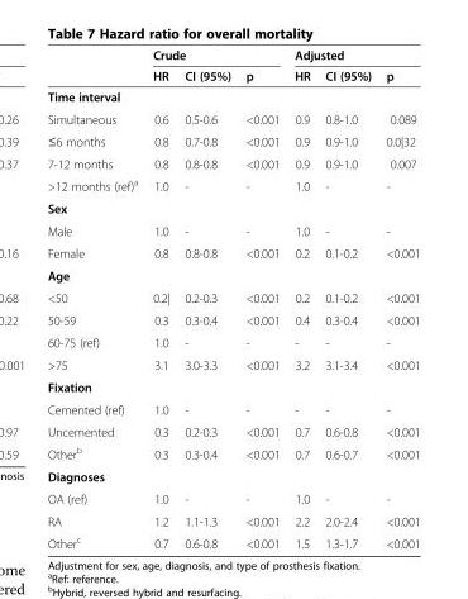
<table><thead><tr><td rowspan="2"></td><td colspan="3">Crude</td><td colspan="3">Adjusted</td></tr><tr><td>HR</td><td>CI (95%)</td><td>p</td><td>HR</td><td>CI (95%)</td><td>p</td></tr></thead><tbody><tr><td colspan="7">Time interval</td></tr><tr><td>Simultaneous</td><td>0.6</td><td>0.5-0.6</td><td>&lt;0.001</td><td>0.9</td><td>0.8-1.0</td><td>0.089</td></tr><tr><td>≤6 months</td><td>0.8</td><td>0.7-0.8</td><td>&lt;0.001</td><td>0.9</td><td>0.9-1.0</td><td>0.0|32</td></tr><tr><td>7-12 months</td><td>0.8</td><td>0.8-0.8</td><td>&lt;0.001</td><td>0.9</td><td>0.9-1.0</td><td>0.007</td></tr><tr><td>&gt;12 months (ref)<sup>a</sup></td><td>1.0</td><td>-</td><td>-</td><td>1.0</td><td>-</td><td>-</td></tr><tr><td colspan="7">Sex</td></tr><tr><td>Male</td><td>1.0</td><td>-</td><td>-</td><td>1.0</td><td>-</td><td>-</td></tr><tr><td>Female</td><td>0.8</td><td>0.8-0.8</td><td>&lt;0.001</td><td>0.2</td><td>0.1-0.2</td><td>&lt;0.001</td></tr><tr><td colspan="7">Age</td></tr><tr><td>&lt;50</td><td>0.2|</td><td>0.2-0.3</td><td>&lt;0.001</td><td>0.2</td><td>0.1-0.2</td><td>&lt;0.001</td></tr><tr><td>50-59</td><td>0.3</td><td>0.3-0.4</td><td>&lt;0.001</td><td>0.4</td><td>0.3-0.4</td><td>&lt;0.001</td></tr><tr><td>60-75 (ref)</td><td>1.0</td><td>-</td><td>-</td><td>-</td><td>-</td><td>-</td></tr><tr><td>&gt;75</td><td>3.1</td><td>3.0-3.3</td><td>&lt;0.001</td><td>3.2</td><td>3.1-3.4</td><td>&lt;0.001</td></tr><tr><td colspan="7">Fixation</td></tr><tr><td>Cemented (ref)</td><td>1.0</td><td>-</td><td>-</td><td>-</td><td>-</td><td>-</td></tr><tr><td>Uncemented</td><td>0.3</td><td>0.2-0.3</td><td>&lt;0.001</td><td>0.7</td><td>0.6-0.8</td><td>&lt;0.001</td></tr><tr><td>Other<sup>b</sup></td><td>0.3</td><td>0.3-0.4</td><td>&lt;0.001</td><td>0.7</td><td>0.6-0.7</td><td>&lt;0.001</td></tr><tr><td colspan="7">Diagnoses</td></tr><tr><td>OA (ref)</td><td>1.0</td><td>-</td><td>-</td><td>1.0</td><td>-</td><td>-</td></tr><tr><td>RA</td><td>1.2</td><td>1.1-1.3</td><td>&lt;0.001</td><td>2.2</td><td>2.0-2.4</td><td>&lt;0.001</td></tr><tr><td>Other<sup>c</sup></td><td>0.7</td><td>0.6-0.8</td><td>&lt;0.001</td><td>1.5</td><td>1.3-1.7</td><td>&lt;0.001</td></tr></tbody></table>